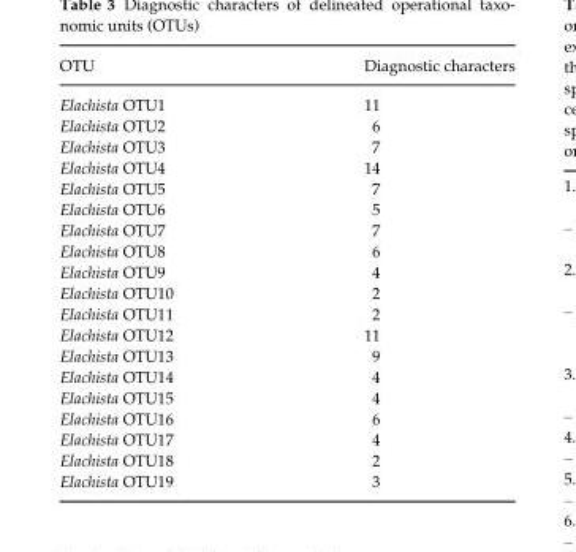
<table><thead><tr><td>OTU</td><td>Diagnostic characters</td></tr></thead><tbody><tr><td>Elachista OTU1</td><td>11</td></tr><tr><td>Elachista OTU2</td><td>6</td></tr><tr><td>Elachista OTU3</td><td>7</td></tr><tr><td>Elachista OTU4</td><td>14</td></tr><tr><td>Elachista OTU5</td><td>7</td></tr><tr><td>Elachista OTU6</td><td>5</td></tr><tr><td>Elachista OTU7</td><td>7</td></tr><tr><td>Elachista OTU8</td><td>6</td></tr><tr><td>Elachista OTU9</td><td>4</td></tr><tr><td>Elachista OTU10</td><td>2</td></tr><tr><td>Elachista OTU11</td><td>2</td></tr><tr><td>Elachista OTU12</td><td>11</td></tr><tr><td>Elachista OTU13</td><td>9</td></tr><tr><td>Elachista OTU14</td><td>4</td></tr><tr><td>Elachista OTU15</td><td>4</td></tr><tr><td>Elachista OTU16</td><td>6</td></tr><tr><td>Elachista OTU17</td><td>4</td></tr><tr><td>Elachista OTU18</td><td>2</td></tr><tr><td>Elachista OTU19</td><td>3</td></tr></tbody></table>